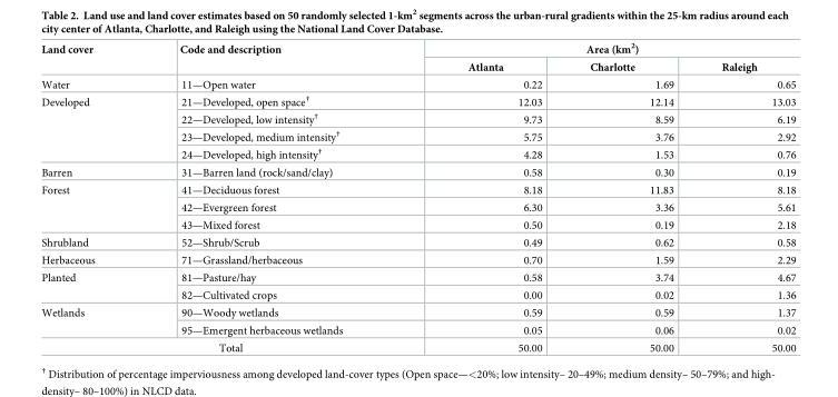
<table><thead><tr><td rowspan="2">Land cover</td><td rowspan="2">Code and description</td><td colspan="3">Area (km<sup>2</sup>)</td></tr><tr><td>Atlanta</td><td>Charlotte</td><td>Raleigh</td></tr></thead><tbody><tr><td>Water</td><td>11—Open water</td><td>0.22</td><td>1.69</td><td>0.65</td></tr><tr><td rowspan="4">Developed</td><td>21—Developed, open space<sup>†</sup></td><td>12.03</td><td>12.14</td><td>13.03</td></tr><tr><td>22—Developed, low intensity<sup>†</sup></td><td>9.73</td><td>8.59</td><td>6.19</td></tr><tr><td>23—Developed, medium intensity<sup>†</sup></td><td>5.75</td><td>3.76</td><td>2.92</td></tr><tr><td>24—Developed, high intensity<sup>†</sup></td><td>4.28</td><td>1.53</td><td>0.76</td></tr><tr><td>Barren</td><td>31—Barren land (rock/sand/clay)</td><td>0.58</td><td>0.30</td><td>0.19</td></tr><tr><td rowspan="3">Forest</td><td>41—Deciduous forest</td><td>8.18</td><td>11.83</td><td>8.18</td></tr><tr><td>42—Evergreen forest</td><td>6.30</td><td>3.36</td><td>5.61</td></tr><tr><td>43—Mixed forest</td><td>0.50</td><td>0.19</td><td>2.18</td></tr><tr><td>Shrubland</td><td>52—Shrub/Scrub</td><td>0.49</td><td>0.62</td><td>0.58</td></tr><tr><td>Herbaceous</td><td>71—Grassland/herbaceous</td><td>0.70</td><td>1.59</td><td>2.29</td></tr><tr><td rowspan="2">Planted</td><td>81—Pasture/hay</td><td>0.58</td><td>3.74</td><td>4.67</td></tr><tr><td>82—Cultivated crops</td><td>0.00</td><td>0.02</td><td>1.36</td></tr><tr><td rowspan="2">Wetlands</td><td>90—Woody wetlands</td><td>0.59</td><td>0.59</td><td>1.37</td></tr><tr><td>95—Emergent herbaceous wetlands</td><td>0.05</td><td>0.06</td><td>0.02</td></tr><tr><td colspan="2">Total</td><td>50.00</td><td>50.00</td><td>50.00</td></tr></tbody></table>